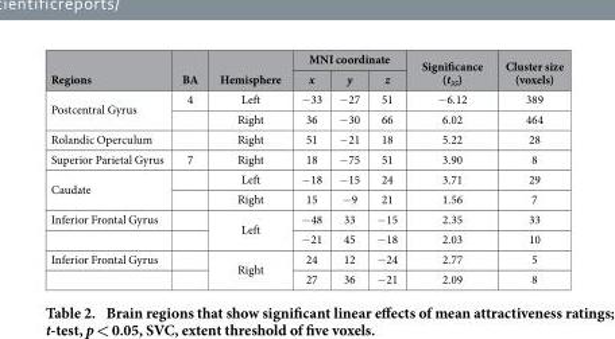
<table><thead><tr><td rowspan="2">Regions</td><td rowspan="2">BA</td><td rowspan="2">Hemisphere</td><td colspan="3">MNI coordinate</td><td rowspan="2">Significance (t<sub>35</sub>)</td><td rowspan="2">Cluster size (voxels)</td></tr><tr><td>x</td><td>y</td><td>z</td></tr></thead><tbody><tr><td rowspan="2">Postcentral Gyrus</td><td>4</td><td>Left</td><td>− 33</td><td>− 27</td><td>51</td><td>− 6.12</td><td>389</td></tr><tr><td></td><td>Right</td><td>36</td><td>− 30</td><td>66</td><td>6.02</td><td>464</td></tr><tr><td>Rolandic Operculum</td><td></td><td>Right</td><td>51</td><td>− 21</td><td>18</td><td>5.22</td><td>28</td></tr><tr><td>Superior Parietal Gyrus</td><td>7</td><td>Right</td><td>18</td><td>− 75</td><td>51</td><td>3.90</td><td>8</td></tr><tr><td rowspan="2">Caudate</td><td></td><td>Left</td><td>− 18</td><td>− 15</td><td>24</td><td>3.71</td><td>29</td></tr><tr><td></td><td>Right</td><td>15</td><td>− 9</td><td>21</td><td>1.56</td><td>7</td></tr><tr><td rowspan="2">Inferior Frontal Gyrus</td><td></td><td rowspan="2">Left</td><td>− 48</td><td>33</td><td>− 15</td><td>2.35</td><td>33</td></tr><tr><td></td><td>− 21</td><td>45</td><td>− 18</td><td>2.03</td><td>10</td></tr><tr><td rowspan="2">Inferior Frontal Gyrus</td><td></td><td rowspan="2">Right</td><td>24</td><td>12</td><td>− 24</td><td>2.77</td><td>5</td></tr><tr><td></td><td>27</td><td>36</td><td>− 21</td><td>2.09</td><td>8</td></tr></tbody></table>